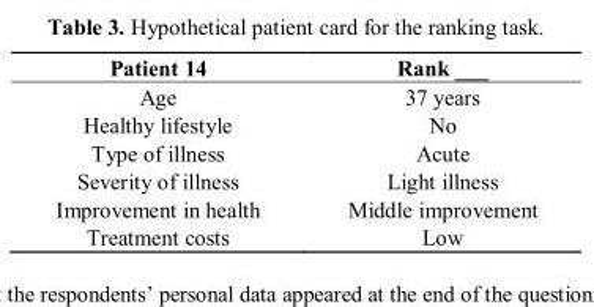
<table><thead><tr><td>Patient 14</td><td>Rank ___</td></tr></thead><tbody><tr><td>Age</td><td>37 years</td></tr><tr><td>Healthy lifestyle</td><td>No</td></tr><tr><td>Type of illness</td><td>Acute</td></tr><tr><td>Severity of illness</td><td>Light illness</td></tr><tr><td>Improvement in health</td><td>Middle improvement</td></tr><tr><td>Treatment costs</td><td>Low</td></tr></tbody></table>